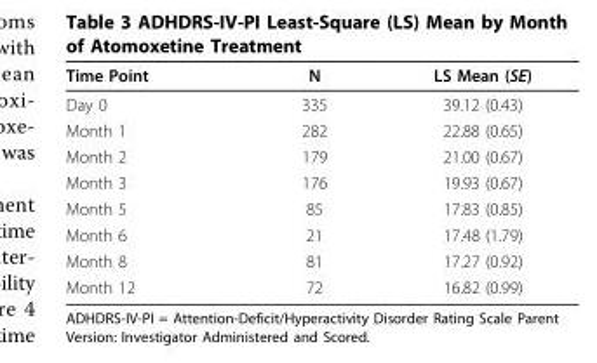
<table><thead><tr><td>Time Point</td><td>N</td><td>LS Mean (SE)</td></tr></thead><tbody><tr><td>Day 0</td><td>335</td><td>39.12 (0.43)</td></tr><tr><td>Month 1</td><td>282</td><td>22.88 (0.65)</td></tr><tr><td>Month 2</td><td>179</td><td>21.00 (0.67)</td></tr><tr><td>Month 3</td><td>176</td><td>19.93 (0.67)</td></tr><tr><td>Month 5</td><td>85</td><td>17.83 (0.85)</td></tr><tr><td>Month 6</td><td>21</td><td>17.48 (1.79)</td></tr><tr><td>Month 8</td><td>81</td><td>17.27 (0.92)</td></tr><tr><td>Month 12</td><td>72</td><td>16.82 (0.99)</td></tr></tbody></table>